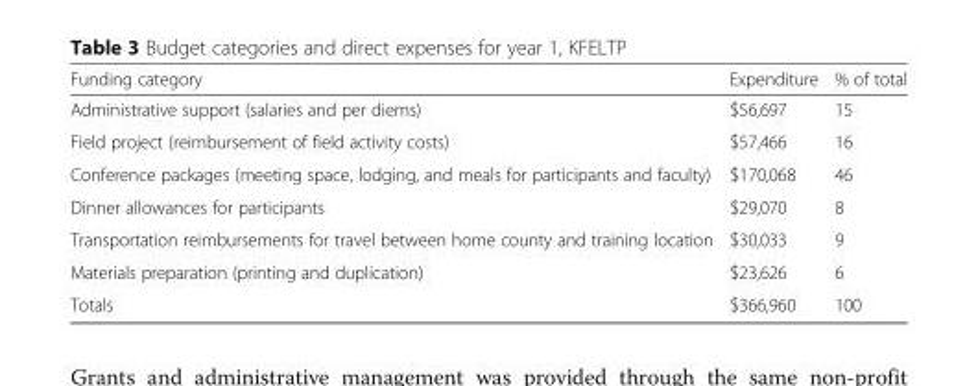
<table><thead><tr><td>Funding category</td><td>Expenditure</td><td>% of total</td></tr></thead><tbody><tr><td>Administrative support (salaries and per diems)</td><td>$56,697</td><td>15</td></tr><tr><td>Field project (reimbursement of field activity costs)</td><td>$57,466</td><td>16</td></tr><tr><td>Conference packages (meeting space, lodging, and meals for participants and faculty)</td><td>$170,068</td><td>46</td></tr><tr><td>Dinner allowances for participants</td><td>$29,070</td><td>8</td></tr><tr><td>Transportation reimbursements for travel between home county and training location</td><td>$30,033</td><td>9</td></tr><tr><td>Materials preparation (printing and duplication)</td><td>$23,626</td><td>6</td></tr><tr><td>Totals</td><td>$366,960</td><td>100</td></tr></tbody></table>